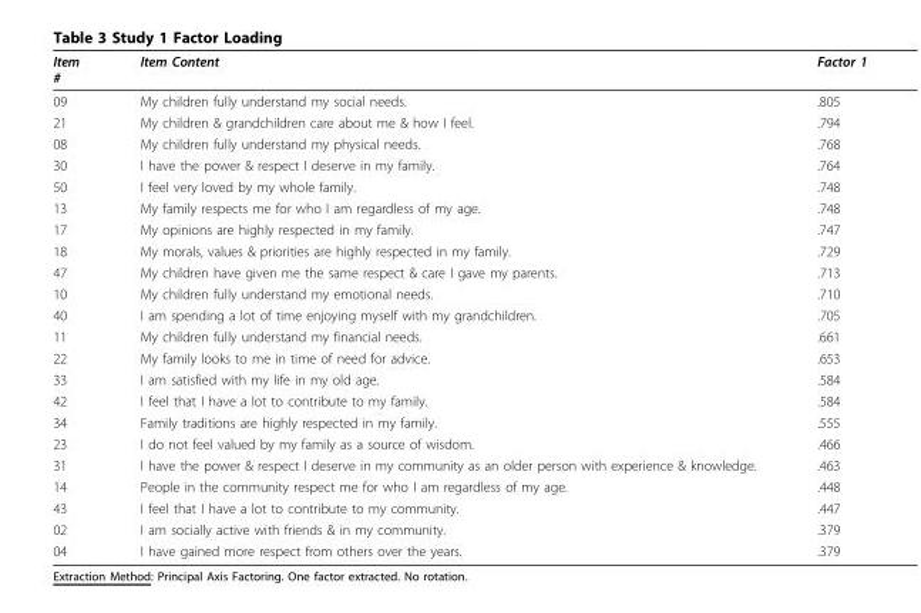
<table><thead><tr><td>Item #</td><td>Item Content</td><td>Factor 1</td></tr></thead><tbody><tr><td>09</td><td>My children fully understand my social needs.</td><td>.805</td></tr><tr><td>21</td><td>My children &amp; grandchildren care about me &amp; how I feel.</td><td>.794</td></tr><tr><td>08</td><td>My children fully understand my physical needs.</td><td>.768</td></tr><tr><td>30</td><td>I have the power &amp; respect I deserve in my family.</td><td>.764</td></tr><tr><td>50</td><td>I feel very loved by my whole family.</td><td>.748</td></tr><tr><td>13</td><td>My family respects me for who I am regardless of my age.</td><td>.748</td></tr><tr><td>17</td><td>My opinions are highly respected in my family.</td><td>.747</td></tr><tr><td>18</td><td>My morals, values &amp; priorities are highly respected in my family.</td><td>.729</td></tr><tr><td>47</td><td>My children have given me the same respect &amp; care I gave my parents.</td><td>.713</td></tr><tr><td>10</td><td>My children fully understand my emotional needs.</td><td>.710</td></tr><tr><td>40</td><td>I am spending a lot of time enjoying myself with my grandchildren.</td><td>.705</td></tr><tr><td>11</td><td>My children fully understand my financial needs.</td><td>.661</td></tr><tr><td>22</td><td>My family looks to me in time of need for advice.</td><td>.653</td></tr><tr><td>33</td><td>I am satisfied with my life in my old age.</td><td>.584</td></tr><tr><td>42</td><td>I feel that I have a lot to contribute to my family.</td><td>.584</td></tr><tr><td>34</td><td>Family traditions are highly respected in my family.</td><td>.555</td></tr><tr><td>23</td><td>I do not feel valued by my family as a source of wisdom.</td><td>.466</td></tr><tr><td>31</td><td>I have the power &amp; respect I deserve in my community as an older person with experience &amp; knowledge.</td><td>.463</td></tr><tr><td>14</td><td>People in the community respect me for who I am regardless of my age.</td><td>.448</td></tr><tr><td>43</td><td>I feel that I have a lot to contribute to my community.</td><td>.447</td></tr><tr><td>02</td><td>I am socially active with friends &amp; in my community.</td><td>.379</td></tr><tr><td>04</td><td>I have gained more respect from others over the years.</td><td>.379</td></tr></tbody></table>